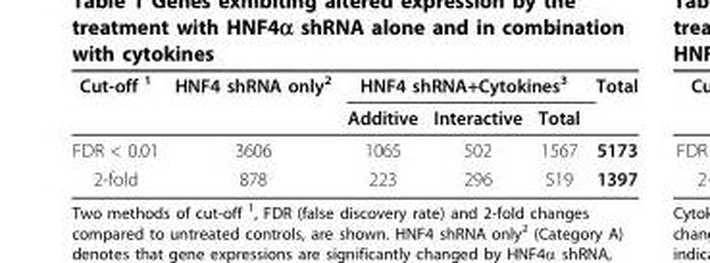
<table><thead><tr><td rowspan="2">Cut-off <sup>1</sup></td><td rowspan="2">HNF4 shRNA only<sup>2</sup></td><td colspan="3">HNF4 shRNA+Cytokines<sup>3</sup></td><td rowspan="2">Total</td></tr><tr><td>Additive</td><td>Interactive</td><td>Total</td></tr></thead><tbody><tr><td>FDR &lt; 0.01</td><td>3606</td><td>1065</td><td>502</td><td>1567</td><td>5173</td></tr><tr><td>2-fold</td><td>878</td><td>223</td><td>296</td><td>519</td><td>1397</td></tr></tbody></table>